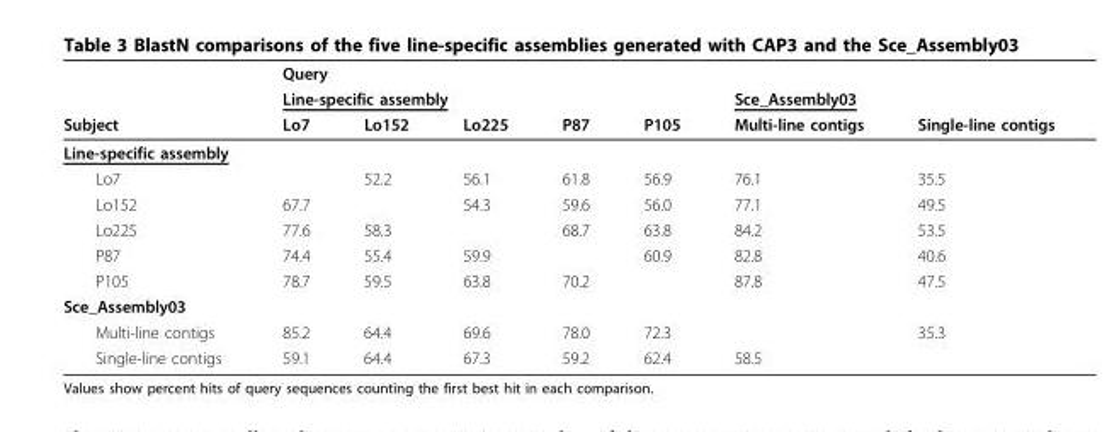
<table><thead><tr><td rowspan="3">Subject</td><td colspan="7">Query</td></tr><tr><td colspan="5">Line-specific assembly</td><td colspan="2">Sce_Assembly03</td></tr><tr><td>Lo7</td><td>Lo152</td><td>Lo225</td><td>P87</td><td>P105</td><td>Multi-line contigs</td><td>Single-line contigs</td></tr></thead><tbody><tr><td colspan="8">Line-specific assembly</td></tr><tr><td>Lo7</td><td></td><td>52.2</td><td>56.1</td><td>61.8</td><td>56.9</td><td>76.1</td><td>35.5</td></tr><tr><td>Lo152</td><td>67.7</td><td></td><td>54.3</td><td>59.6</td><td>56.0</td><td>77.1</td><td>49.5</td></tr><tr><td>Lo225</td><td>77.6</td><td>58.3</td><td></td><td>68.7</td><td>63.8</td><td>84.2</td><td>53.5</td></tr><tr><td>P87</td><td>74.4</td><td>55.4</td><td>59.9</td><td></td><td>60.9</td><td>82.8</td><td>40.6</td></tr><tr><td>P105</td><td>78.7</td><td>59.5</td><td>63.8</td><td>70.2</td><td></td><td>87.8</td><td>47.5</td></tr><tr><td colspan="8">Sce_Assembly03</td></tr><tr><td>Multi-line contigs</td><td>85.2</td><td>64.4</td><td>69.6</td><td>78.0</td><td>72.3</td><td></td><td>35.3</td></tr><tr><td>Single-line contigs</td><td>59.1</td><td>64.4</td><td>67.3</td><td>59.2</td><td>62.4</td><td>58.5</td><td></td></tr></tbody></table>